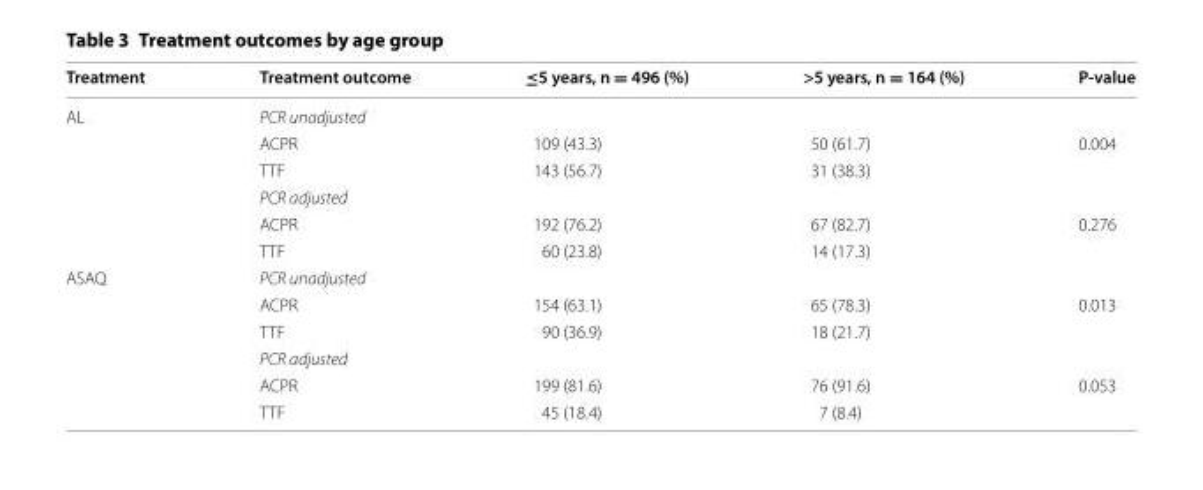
<table><thead><tr><td>Treatment</td><td>Treatment outcome</td><td>≤5 years, n = 496 (%)</td><td>&gt;5 years, n = 164 (%)</td><td>P-value</td></tr></thead><tbody><tr><td rowspan="6">AL</td><td colspan="4">PCR unadjusted</td></tr><tr><td>ACPR</td><td>109 (43.3)</td><td>50 (61.7)</td><td>0.004</td></tr><tr><td>TTF</td><td>143 (56.7)</td><td>31 (38.3)</td><td></td></tr><tr><td colspan="4">PCR adjusted</td></tr><tr><td>ACPR</td><td>192 (76.2)</td><td>67 (82.7)</td><td>0.276</td></tr><tr><td>TTF</td><td>60 (23.8)</td><td>14 (17.3)</td><td></td></tr><tr><td rowspan="6">ASAQ</td><td colspan="4">PCR unadjusted</td></tr><tr><td>ACPR</td><td>154 (63.1)</td><td>65 (78.3)</td><td>0.013</td></tr><tr><td>TTF</td><td>90 (36.9)</td><td>18 (21.7)</td><td></td></tr><tr><td colspan="4">PCR adjusted</td></tr><tr><td>ACPR</td><td>199 (81.6)</td><td>76 (91.6)</td><td>0.053</td></tr><tr><td>TTF</td><td>45 (18.4)</td><td>7 (8.4)</td><td></td></tr></tbody></table>